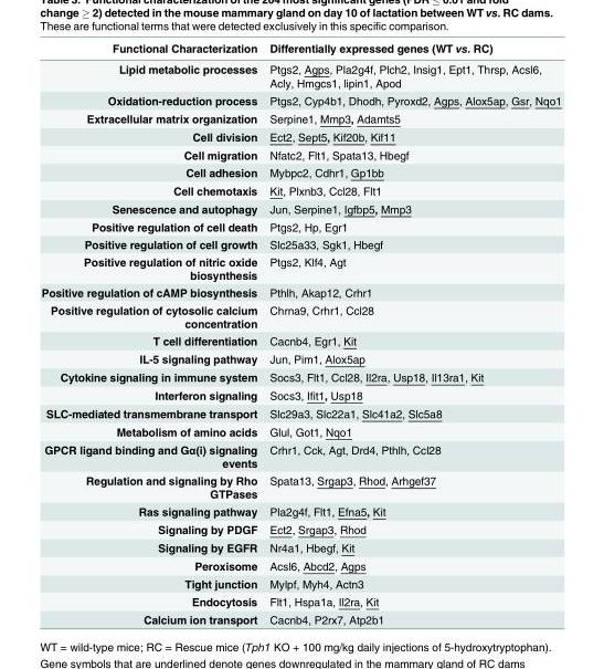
<table><thead><tr><td>Functional Characterization</td><td>Differentially expressed genes (WT vs. RC)</td></tr></thead><tbody><tr><td>Lipid metabolic processes</td><td>Ptgs2, Agps, Pla2g4f, Plch2, Insig1, Ept1, Thrsp, Acsl6, Acly, Hmgcs1, lipin1, Apod</td></tr><tr><td>Oxidation-reduction process</td><td>Ptgs2, Cyp4b1, Dhodh, Pyroxd2, Agps, Alox5ap, Gsr, Nqo1</td></tr><tr><td>Extracellular matrix organization</td><td>Serpine1, Mmp3, Adamts5</td></tr><tr><td>Cell division</td><td>Ect2, Sept5, Kif20b, Kif11</td></tr><tr><td>Cell migration</td><td>Nfatc2, Flt1, Spata13, Hbegf</td></tr><tr><td>Cell adhesion</td><td>Mybpc2, Cdhr1, Gp1bb</td></tr><tr><td>Cell chemotaxis</td><td>Kit, Plxnb3, Ccl28, Flt1</td></tr><tr><td>Senescence and autophagy</td><td>Jun, Serpine1, Igfbp5, Mmp3</td></tr><tr><td>Positive regulation of cell death</td><td>Ptgs2, Hp, Egr1</td></tr><tr><td>Positive regulation of cell growth</td><td>Slc25a33, Sgk1, Hbegf</td></tr><tr><td>Positive regulation of nitric oxide biosynthesis</td><td>Ptgs2, Klf4, Agt</td></tr><tr><td>Positive regulation of cAMP biosynthesis</td><td>Pthlh, Akap12, Crhr1</td></tr><tr><td>Positive regulation of cytosolic calcium concentration</td><td>Chrna9, Crhr1, Ccl28</td></tr><tr><td>T cell differentiation</td><td>Cacnb4, Egr1, Kit</td></tr><tr><td>IL-5 signaling pathway</td><td>Jun, Pim1, Alox5ap</td></tr><tr><td>Cytokine signaling in immune system</td><td>Socs3, Flt1, Ccl28, Il2ra, Usp18, Il13ra1, Kit</td></tr><tr><td>Interferon signaling</td><td>Socs3, Ifit1, Usp18</td></tr><tr><td>SLC-mediated transmembrane transport</td><td>Slc29a3, Slc22a1, Slc41a2, Slc5a8</td></tr><tr><td>Metabolism of amino acids</td><td>Glul, Got1, Nqo1</td></tr><tr><td>GPCR ligand binding and Gα(i) signaling events</td><td>Crhr1, Cck, Agt, Drd4, Pthlh, Ccl28</td></tr><tr><td>Regulation and signaling by Rho GTPases</td><td>Spata13, Srgap3, Rhod, Arhgef37</td></tr><tr><td>Ras signaling pathway</td><td>Pla2g4f, Flt1, Efna5, Kit</td></tr><tr><td>Signaling by PDGF</td><td>Ect2, Srgap3, Rhod</td></tr><tr><td>Signaling by EGFR</td><td>Nr4a1, Hbegf, Kit</td></tr><tr><td>Peroxisome</td><td>Acsl6, Abcd2, Agps</td></tr><tr><td>Tight junction</td><td>Mylpf, Myh4, Actn3</td></tr><tr><td>Endocytosis</td><td>Flt1, Hspa1a, Il2ra, Kit</td></tr><tr><td>Calcium ion transport</td><td>Cacnb4, P2rx7, Atp2b1</td></tr></tbody></table>